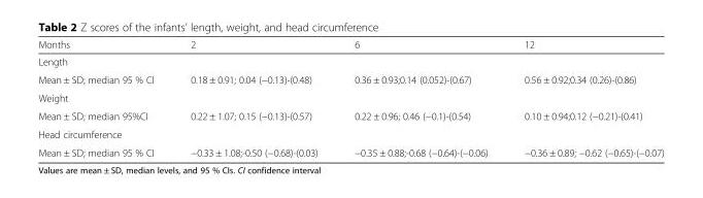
<table><thead><tr><td>Months</td><td>2</td><td>6</td><td>12</td></tr></thead><tbody><tr><td colspan="4">Length</td></tr><tr><td>Mean ± SD; median 95 % CI</td><td>0.18 ± 0.91; 0.04 (−0.13)-(0.48)</td><td>0.36 ± 0.93;0.14 (0.052)-(0.67)</td><td>0.56 ± 0.92;0.34 (0.26)-(0.86)</td></tr><tr><td colspan="4">Weight</td></tr><tr><td>Mean ± SD; median 95%CI</td><td>0.22 ± 1.07; 0.15 (−0.13)-(0.57)</td><td>0.22 ± 0.96; 0.46 (−0.1)-(0.54)</td><td>0.10 ± 0.94;0.12 (−0.21)-(0.41)</td></tr><tr><td colspan="4">Head circumference</td></tr><tr><td>Mean ± SD; median 95 % CI</td><td>−0.33 ± 1.08;-0.50 (−0.68)-(0.03)</td><td>−0.35 ± 0.88;-0.68 (−0.64)-(−0.06)</td><td>−0.36 ± 0.89; −0.62 (−0.65)-(−0.07)</td></tr></tbody></table>